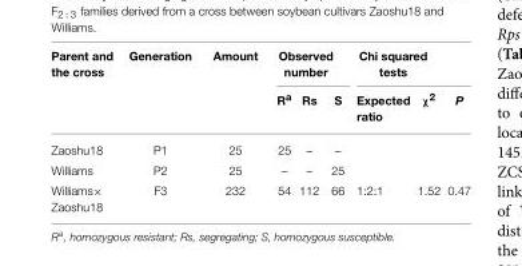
<table><thead><tr><td rowspan="2">Parent and the cross</td><td rowspan="2">Generation</td><td rowspan="2">Amount</td><td colspan="3">Observed number</td><td colspan="3">Chi squared tests</td></tr><tr><td>R<sup>a</sup></td><td>Rs</td><td>S</td><td>Expected ratio</td><td>χ<sup>2</sup></td><td>P</td></tr></thead><tbody><tr><td>Zaoshu18</td><td>P1</td><td>25</td><td>25</td><td>–</td><td>–</td><td></td><td></td><td></td></tr><tr><td>Williams</td><td>P2</td><td>25</td><td>–</td><td>–</td><td>25</td><td></td><td></td><td></td></tr><tr><td>Williams× Zaoshu18</td><td>F3</td><td>232</td><td>54</td><td>112</td><td>66</td><td>1:2:1</td><td>1.52</td><td>0.47</td></tr></tbody></table>